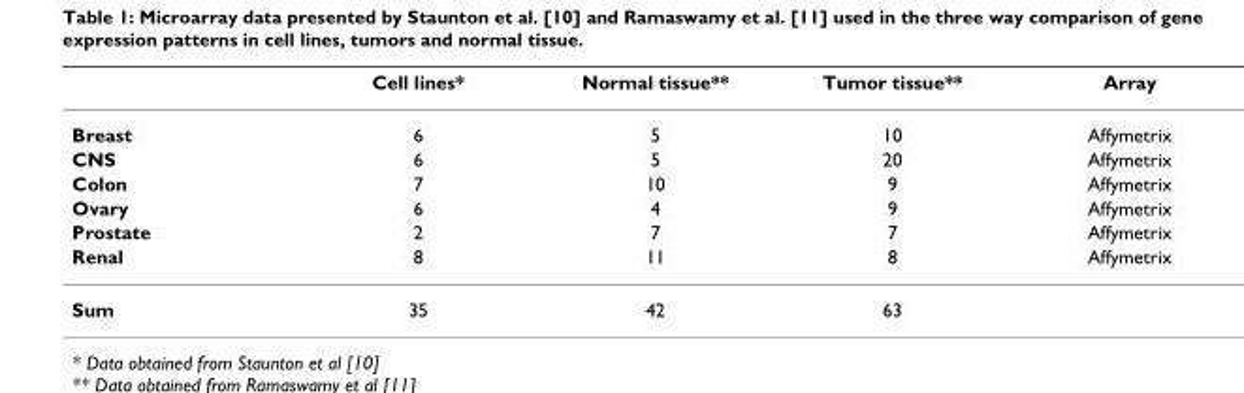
<table><thead><tr><td></td><td>Cell lines*</td><td>Normal tissue**</td><td>Tumor tissue**</td><td>Array</td></tr></thead><tbody><tr><td>Breast</td><td>6</td><td>5</td><td>10</td><td>Affymetrix</td></tr><tr><td>CNS</td><td>6</td><td>5</td><td>20</td><td>Affymetrix</td></tr><tr><td>Colon</td><td>7</td><td>10</td><td>9</td><td>Affymetrix</td></tr><tr><td>Ovary</td><td>6</td><td>4</td><td>9</td><td>Affymetrix</td></tr><tr><td>Prostate</td><td>2</td><td>7</td><td>7</td><td>Affymetrix</td></tr><tr><td>Renal</td><td>8</td><td>11</td><td>8</td><td>Affymetrix</td></tr><tr><td>Sum</td><td>35</td><td>42</td><td>63</td><td></td></tr></tbody></table>